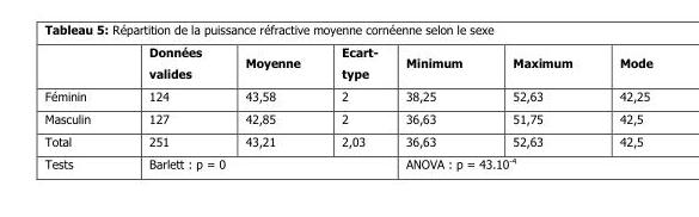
<table><thead><tr><td></td><td>Données valides</td><td>Moyenne</td><td>Ecart- type</td><td>Minimum</td><td>Maximum</td><td>Mode</td></tr></thead><tbody><tr><td>Féminin</td><td>124</td><td>43,58</td><td>2</td><td>38,25</td><td>52,63</td><td>42,25</td></tr><tr><td>Masculin</td><td>127</td><td>42,85</td><td>2</td><td>36,63</td><td>51,75</td><td>42,5</td></tr><tr><td>Total</td><td>251</td><td>43,21</td><td>2,03</td><td>36,63</td><td>52,63</td><td>42,5</td></tr><tr><td>Tests</td><td colspan="3">Barlett : p = 0</td><td colspan="3">ANOVA : p = 43.10<sup>-4</sup></td></tr></tbody></table>